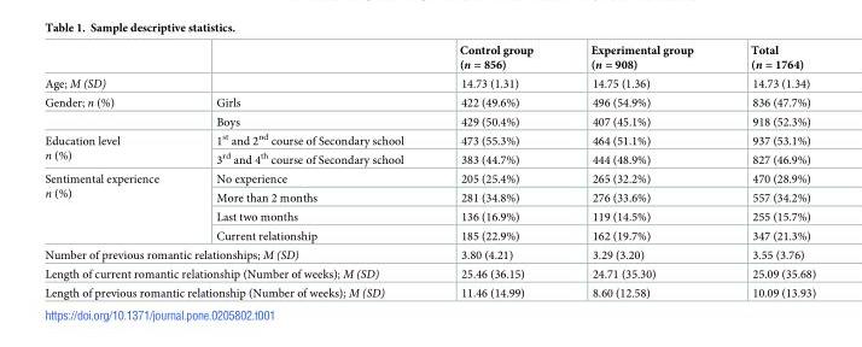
<table><thead><tr><td></td><td></td><td>Control group (n = 856)</td><td>Experimental group (n = 908)</td><td>Total (n = 1764)</td></tr></thead><tbody><tr><td>Age; M (SD)</td><td></td><td>14.73 (1.31)</td><td>14.75 (1.36)</td><td>14.73 (1.34)</td></tr><tr><td rowspan="2">Gender; n (%)</td><td>Girls</td><td>422 (49.6%)</td><td>496 (54.9%)</td><td>836 (47.7%)</td></tr><tr><td>Boys</td><td>429 (50.4%)</td><td>407 (45.1%)</td><td>918 (52.3%)</td></tr><tr><td rowspan="2">Education level n (%)</td><td>1<sup>st</sup> and 2<sup>nd</sup> course of Secondary school</td><td>473 (55.3%)</td><td>464 (51.1%)</td><td>937 (53.1%)</td></tr><tr><td>3<sup>rd</sup> and 4<sup>th</sup> course of Secondary school</td><td>383 (44.7%)</td><td>444 (48.9%)</td><td>827 (46.9%)</td></tr><tr><td rowspan="4">Sentimental experience n (%)</td><td>No experience</td><td>205 (25.4%)</td><td>265 (32.2%)</td><td>470 (28.9%)</td></tr><tr><td>More than 2 months</td><td>281 (34.8%)</td><td>276 (33.6%)</td><td>557 (34.2%)</td></tr><tr><td>Last two months</td><td>136 (16.9%)</td><td>119 (14.5%)</td><td>255 (15.7%)</td></tr><tr><td>Current relationship</td><td>185 (22.9%)</td><td>162 (19.7%)</td><td>347 (21.3%)</td></tr><tr><td colspan="2">Number of previous romantic relationships; M (SD)</td><td>3.80 (4.21)</td><td>3.29 (3.20)</td><td>3.55 (3.76)</td></tr><tr><td colspan="2">Length of current romantic relationship (Number of weeks); M (SD)</td><td>25.46 (36.15)</td><td>24.71 (35.30)</td><td>25.09 (35.68)</td></tr><tr><td colspan="2">Length of previous romantic relationship (Number of weeks); M (SD)</td><td>11.46 (14.99)</td><td>8.60 (12.58)</td><td>10.09 (13.93)</td></tr></tbody></table>